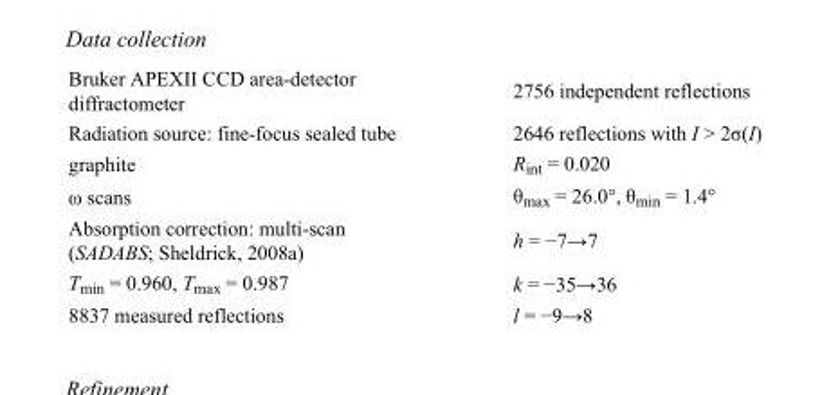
<table><tbody><tr><td>Bruker APEXII CCD area-detector diffractometer</td><td>2756 independent reflections</td></tr><tr><td>Radiation source: fine-focus sealed tube</td><td>2646 reflections with I &gt; 2σ(I)</td></tr><tr><td>graphite</td><td>R<sub>int</sub> = 0.020</td></tr><tr><td>ω scans</td><td>θ<sub>max</sub> = 26.0°, θ<sub>min</sub> = 1.4°</td></tr><tr><td>Absorption correction: multi-scan (SADABS; Sheldrick, 2008a)</td><td>h = −7→7</td></tr><tr><td>T<sub>min</sub> = 0.960, T<sub>max</sub> = 0.987</td><td>k = −35→36</td></tr><tr><td>8837 measured reflections</td><td>l = −9→8</td></tr></tbody></table>